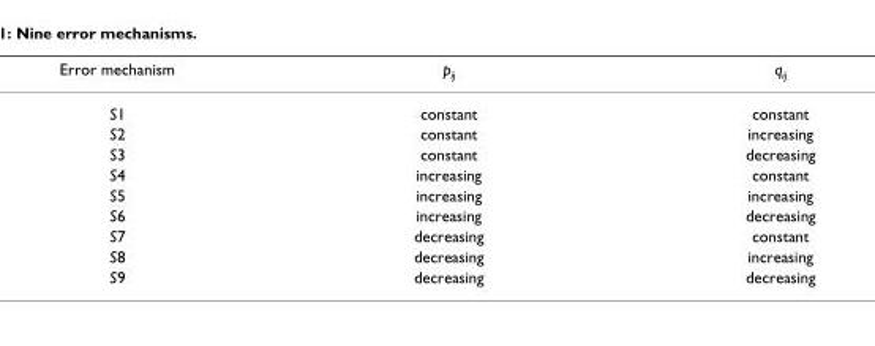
<table><thead><tr><td>Error mechanism</td><td>pij</td><td>qij</td></tr></thead><tbody><tr><td>S1</td><td>constant</td><td>constant</td></tr><tr><td>S2</td><td>constant</td><td>increasing</td></tr><tr><td>S3</td><td>constant</td><td>decreasing</td></tr><tr><td>S4</td><td>increasing</td><td>constant</td></tr><tr><td>S5</td><td>increasing</td><td>increasing</td></tr><tr><td>S6</td><td>increasing</td><td>decreasing</td></tr><tr><td>S7</td><td>decreasing</td><td>constant</td></tr><tr><td>S8</td><td>decreasing</td><td>increasing</td></tr><tr><td>S9</td><td>decreasing</td><td>decreasing</td></tr></tbody></table>